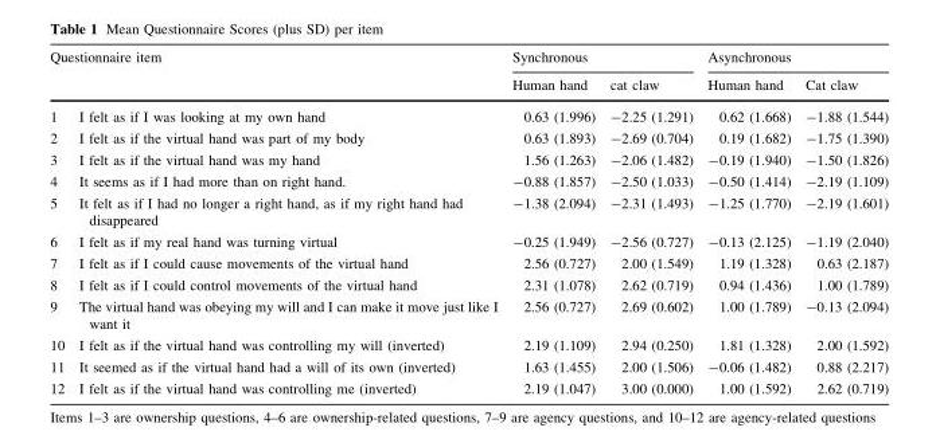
<table><thead><tr><td rowspan="2" colspan="2">Questionnaire item</td><td colspan="2">Synchronous</td><td colspan="2">Asynchronous</td></tr><tr><td rowspan="2">Human hand 0.63 (1.996)</td><td rowspan="2">cat claw -2.25 (1.291)</td><td rowspan="2">Human hand 0.62 (1.668)</td><td rowspan="2">Cat claw -1.88 (1.544)</td></tr><tr><td>1</td><td>I felt as if I was looking at my own hand</td></tr></thead><tbody><tr><td>2</td><td>I felt as if the virtual hand was part of my body</td><td>0.63 (1.893)</td><td>-2.69 (0.704)</td><td>0.19 (1.682)</td><td>-1.75 (1.390)</td></tr><tr><td>3</td><td>I felt as if the virtual hand was my hand</td><td>1.56 (1.263)</td><td>-2.06 (1.482)</td><td>-0.19 (1.940)</td><td>-1.50 (1.826)</td></tr><tr><td>4</td><td>It seems as if I had more than on right hand.</td><td>-0.88 (1.857)</td><td>-2.50 (1.033)</td><td>-0.50 (1.414)</td><td>-2.19 (1.109)</td></tr><tr><td>5</td><td>It felt as if I had no longer a right hand, as if my right hand had disappeared</td><td>-1.38 (2.094)</td><td>-2.31 (1.493)</td><td>-1.25 (1.770)</td><td>-2.19 (1.601)</td></tr><tr><td>6</td><td>I felt as if my real hand was turning virtual</td><td>-0.25 (1.949)</td><td>-2.56 (0.727)</td><td>-0.13 (2.125)</td><td>-1.19 (2.040)</td></tr><tr><td>7</td><td>I felt as if I could cause movements of the virtual hand</td><td>2.56 (0.727)</td><td>2.00 (1.549)</td><td>1.19 (1.328)</td><td>0.63 (2.187)</td></tr><tr><td>8</td><td>I felt as if I could control movements of the virtual hand</td><td>2.31 (1.078)</td><td>2.62 (0.719)</td><td>0.94 (1.436)</td><td>1.00 (1.789)</td></tr><tr><td>9</td><td>The virtual hand was obeying my will and I can make it move just like I want it</td><td>2.56 (0.727)</td><td>2.69 (0.602)</td><td>1.00 (1.789)</td><td>-0.13 (2.094)</td></tr><tr><td>10</td><td>I felt as if the virtual hand was controlling my will (inverted)</td><td>2.19 (1.109)</td><td>2.94 (0.250)</td><td>1.81 (1.328)</td><td>2.00 (1.592)</td></tr><tr><td>11</td><td>It seemed as if the virtual hand had a will of its own (inverted)</td><td>1.63 (1.455)</td><td>2.00 (1.506)</td><td>-0.06 (1.482)</td><td>0.88 (2.217)</td></tr><tr><td>12</td><td>I felt as if the virtual hand was controlling me (inverted)</td><td>2.19 (1.047)</td><td>3.00 (0.000)</td><td>1.00 (1.592)</td><td>2.62 (0.719)</td></tr></tbody></table>